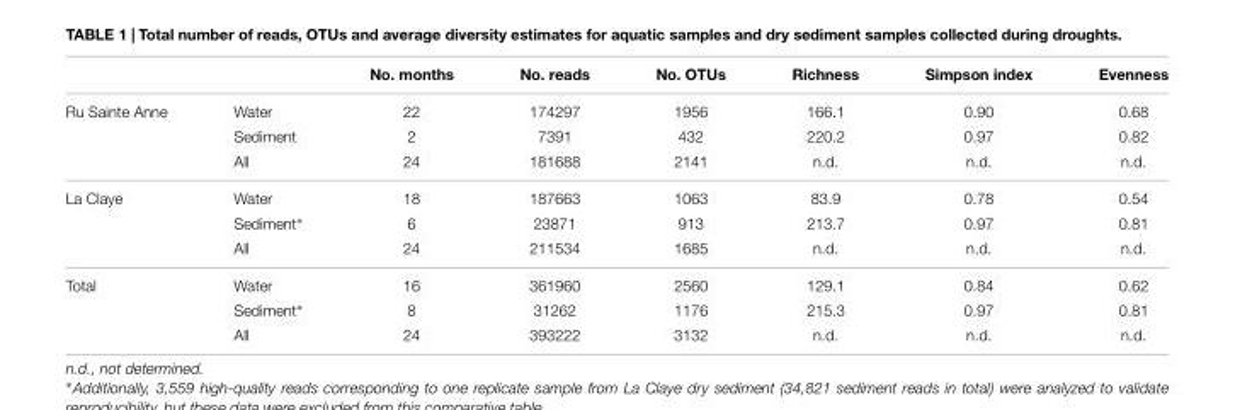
<table><thead><tr><td></td><td></td><td>No. months</td><td>No. reads</td><td>No. OTUs</td><td>Richness</td><td>Simpson index</td><td>Evenness</td></tr></thead><tbody><tr><td rowspan="3">Ru Sainte Anne</td><td>Water</td><td>22</td><td>174297</td><td>1956</td><td>166.1</td><td>0.90</td><td>0.68</td></tr><tr><td>Sediment</td><td>2</td><td>7391</td><td>432</td><td>220.2</td><td>0.97</td><td>0.82</td></tr><tr><td>All</td><td>24</td><td>181688</td><td>2141</td><td>n.d.</td><td>n.d.</td><td>n.d.</td></tr><tr><td rowspan="3">La Claye</td><td>Water</td><td>18</td><td>187663</td><td>1063</td><td>83.9</td><td>0.78</td><td>0.54</td></tr><tr><td>Sediment∗</td><td>6</td><td>23871</td><td>913</td><td>213.7</td><td>0.97</td><td>0.81</td></tr><tr><td>All</td><td>24</td><td>211534</td><td>1685</td><td>n.d.</td><td>n.d.</td><td>n.d.</td></tr><tr><td rowspan="3">Total</td><td>Water</td><td>16</td><td>361960</td><td>2560</td><td>129.1</td><td>0.84</td><td>0.62</td></tr><tr><td>Sediment∗</td><td>8</td><td>31262</td><td>1176</td><td>215.3</td><td>0.97</td><td>0.81</td></tr><tr><td>All</td><td>24</td><td>393222</td><td>3132</td><td>n.d.</td><td>n.d.</td><td>n.d.</td></tr></tbody></table>